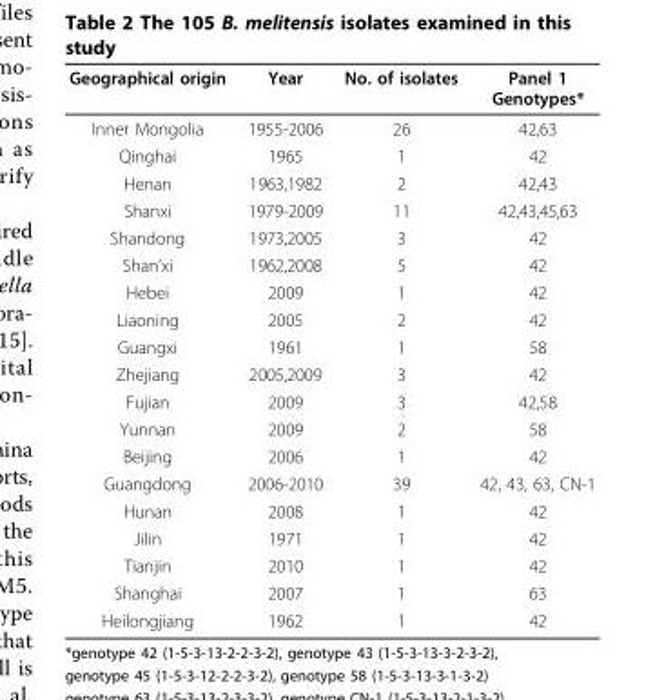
<table><thead><tr><td>Geographical origin</td><td>Year</td><td>No. of isolates</td><td>Panel 1 Genotypes*</td></tr></thead><tbody><tr><td>Inner Mongolia</td><td>1955-2006</td><td>26</td><td>42,63</td></tr><tr><td>Qinghai</td><td>1965</td><td>1</td><td>42</td></tr><tr><td>Henan</td><td>1963,1982</td><td>2</td><td>42,43</td></tr><tr><td>Shanxi</td><td>1979-2009</td><td>11</td><td>42,43,45,63</td></tr><tr><td>Shandong</td><td>1973,2005</td><td>3</td><td>42</td></tr><tr><td>Shan’xi</td><td>1962,2008</td><td>5</td><td>42</td></tr><tr><td>Hebei</td><td>2009</td><td>1</td><td>42</td></tr><tr><td>Liaoning</td><td>2005</td><td>2</td><td>42</td></tr><tr><td>Guangxi</td><td>1961</td><td>1</td><td>58</td></tr><tr><td>Zhejiang</td><td>2005,2009</td><td>3</td><td>42</td></tr><tr><td>Fujian</td><td>2009</td><td>3</td><td>42,58</td></tr><tr><td>Yunnan</td><td>2009</td><td>2</td><td>58</td></tr><tr><td>Beijing</td><td>2006</td><td>1</td><td>42</td></tr><tr><td>Guangdong</td><td>2006-2010</td><td>39</td><td>42, 43, 63, CN-1</td></tr><tr><td>Hunan</td><td>2008</td><td>1</td><td>42</td></tr><tr><td>Jilin</td><td>1971</td><td>1</td><td>42</td></tr><tr><td>Tianjin</td><td>2010</td><td>1</td><td>42</td></tr><tr><td>Shanghai</td><td>2007</td><td>1</td><td>63</td></tr><tr><td>Heilongjiang</td><td>1962</td><td>1</td><td>42</td></tr></tbody></table>